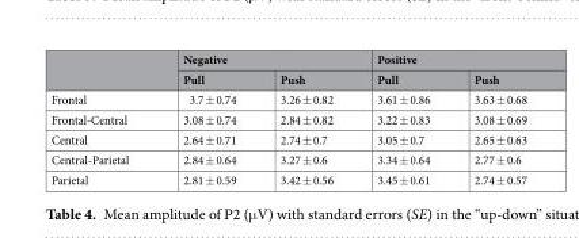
<table><thead><tr><td rowspan="2"></td><td colspan="2">Negative</td><td colspan="2">Positive</td></tr><tr><td>Pull</td><td>Push</td><td>Pull</td><td>Push</td></tr></thead><tbody><tr><td>Frontal</td><td>3.7 ± 0.74</td><td>3.26 ± 0.82</td><td>3.61 ± 0.86</td><td>3.63 ± 0.68</td></tr><tr><td>Frontal-Central</td><td>3.08 ± 0.74</td><td>2.84 ± 0.82</td><td>3.22 ± 0.83</td><td>3.08 ± 0.69</td></tr><tr><td>Central</td><td>2.64 ± 0.71</td><td>2.74 ± 0.7</td><td>3.05 ± 0.7</td><td>2.65 ± 0.63</td></tr><tr><td>Central-Parietal</td><td>2.84 ± 0.64</td><td>3.27 ± 0.6</td><td>3.34 ± 0.64</td><td>2.77 ± 0.6</td></tr><tr><td>Parietal</td><td>2.81 ± 0.59</td><td>3.42 ± 0.56</td><td>3.45 ± 0.61</td><td>2.74 ± 0.57</td></tr></tbody></table>